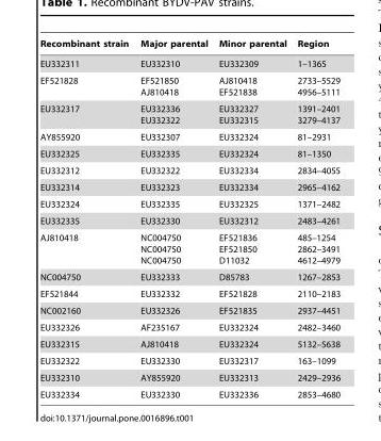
<table><thead><tr><td>Recombinant strain</td><td>Major parental</td><td>Minor parental</td><td>Region</td></tr></thead><tbody><tr><td>EU332311</td><td>EU332310</td><td>EU332309</td><td>1–1365</td></tr><tr><td>EF521828</td><td>EF521850 AJ810418</td><td>AJ810418 EF521838</td><td>2733–5529 4956–5111</td></tr><tr><td>EU332317</td><td>EU332336 EU332322</td><td>EU332327 EU332315</td><td>1391–2401 3279–4137</td></tr><tr><td>AY855920</td><td>EU332307</td><td>EU332324</td><td>81–2931</td></tr><tr><td>EU332325</td><td>EU332335</td><td>EU332324</td><td>81–1350</td></tr><tr><td>EU332312</td><td>EU332322</td><td>EU332334</td><td>2834–4055</td></tr><tr><td>EU332314</td><td>EU332323</td><td>EU332334</td><td>2965–4162</td></tr><tr><td>EU332324</td><td>EU332335</td><td>EU332325</td><td>1371–2482</td></tr><tr><td>EU332335</td><td>EU332330</td><td>EU332312</td><td>2483–4261</td></tr><tr><td>AJ810418</td><td>NC004750 NC004750 NC004750</td><td>EF521836 EF521850 D11032</td><td>485–1254 2862–3491 4612–4979</td></tr><tr><td>NC004750</td><td>EU332333</td><td>D85783</td><td>1267–2853</td></tr><tr><td>EF521844</td><td>EU332332</td><td>EF521828</td><td>2110–2183</td></tr><tr><td>NC002160</td><td>EU332326</td><td>EF521835</td><td>2937–4451</td></tr><tr><td>EU332326</td><td>AF235167</td><td>EU332324</td><td>2482–3460</td></tr><tr><td>EU332315</td><td>AJ810418</td><td>EU332324</td><td>5132–5638</td></tr><tr><td>EU332322</td><td>EU332330</td><td>EU332317</td><td>163–1099</td></tr><tr><td>EU332310</td><td>AY855920</td><td>EU332313</td><td>2429–2936</td></tr><tr><td>EU332334</td><td>EU332330</td><td>EU332336</td><td>2853–4680</td></tr></tbody></table>